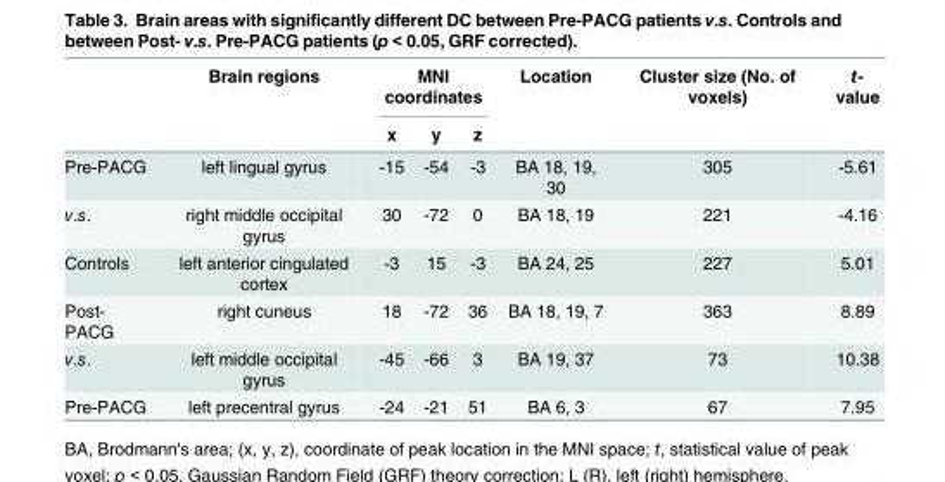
<table><thead><tr><td rowspan="2"></td><td rowspan="2">Brain regions</td><td colspan="3">MNI coordinates</td><td rowspan="2">Location</td><td rowspan="2">Cluster size (No. of voxels)</td><td rowspan="2">t- value</td></tr><tr><td>x</td><td>y</td><td>z</td></tr></thead><tbody><tr><td>Pre-PACG</td><td>left lingual gyrus</td><td>-15</td><td>-54</td><td>-3</td><td>BA 18, 19, 30</td><td>305</td><td>-5.61</td></tr><tr><td>v.s.</td><td>right middle occipital gyrus</td><td>30</td><td>-72</td><td>0</td><td>BA 18, 19</td><td>221</td><td>-4.16</td></tr><tr><td>Controls</td><td>left anterior cingulated cortex</td><td>-3</td><td>15</td><td>-3</td><td>BA 24, 25</td><td>227</td><td>5.01</td></tr><tr><td>Post- PACG</td><td>right cuneus</td><td>18</td><td>-72</td><td>36</td><td>BA 18, 19, 7</td><td>363</td><td>8.89</td></tr><tr><td>v.s.</td><td>left middle occipital gyrus</td><td>-45</td><td>-66</td><td>3</td><td>BA 19, 37</td><td>73</td><td>10.38</td></tr><tr><td>Pre-PACG</td><td>left precentral gyrus</td><td>-24</td><td>-21</td><td>51</td><td>BA 6, 3</td><td>67</td><td>7.95</td></tr></tbody></table>